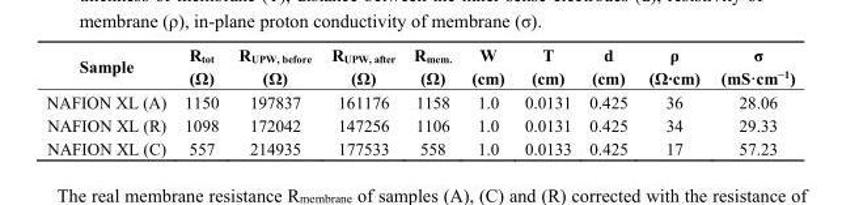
<table><thead><tr><td>Sample</td><td>R<sub>tot</sub> (Ω)</td><td>R<sub>UPW, before</sub> (Ω)</td><td>R<sub>UPW, after</sub> (Ω)</td><td>R<sub>mem.</sub> (Ω)</td><td>W (cm)</td><td>T (cm)</td><td>d (cm)</td><td>ρ (Ω·cm)</td><td>σ (mS·cm<sup>−1</sup>)</td></tr></thead><tbody><tr><td>NAFION XL (A)</td><td>1150</td><td>197837</td><td>161176</td><td>1158</td><td>1.0</td><td>0.0131</td><td>0.425</td><td>36</td><td>28.06</td></tr><tr><td>NAFION XL (R)</td><td>1098</td><td>172042</td><td>147256</td><td>1106</td><td>1.0</td><td>0.0131</td><td>0.425</td><td>34</td><td>29.33</td></tr><tr><td>NAFION XL (C)</td><td>557</td><td>214935</td><td>177533</td><td>558</td><td>1.0</td><td>0.0133</td><td>0.425</td><td>17</td><td>57.23</td></tr></tbody></table>